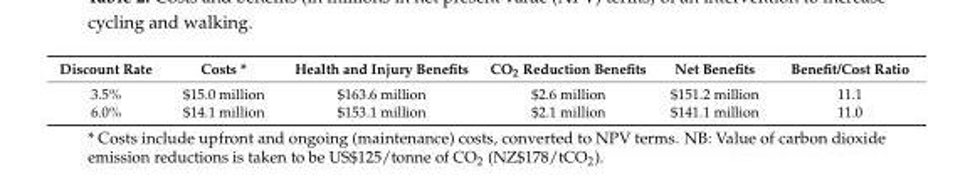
<table><thead><tr><td>Discount Rate</td><td>Costs *</td><td>Health and Injury Benefits</td><td>CO<sub>2</sub> Reduction Benefits</td><td>Net Benefits</td><td>Benefit/Cost Ratio</td></tr></thead><tbody><tr><td>3.5%</td><td>$15.0 million</td><td>$163.6 million</td><td>$2.6 million</td><td>$151.2 million</td><td>11.1</td></tr><tr><td>6.0%</td><td>$14.1 million</td><td>$153.1 million</td><td>$2.1 million</td><td>$141.1 million</td><td>11.0</td></tr></tbody></table>